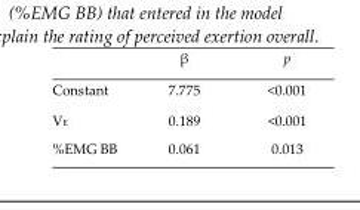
<table><thead><tr><td></td><td>β</td><td>p</td></tr></thead><tbody><tr><td>Constant</td><td>7.775</td><td>&lt;0.001</td></tr><tr><td>V<sub>E</sub></td><td>0.189</td><td>&lt;0.001</td></tr><tr><td>%EMG BB</td><td>0.061</td><td>0.013</td></tr></tbody></table>